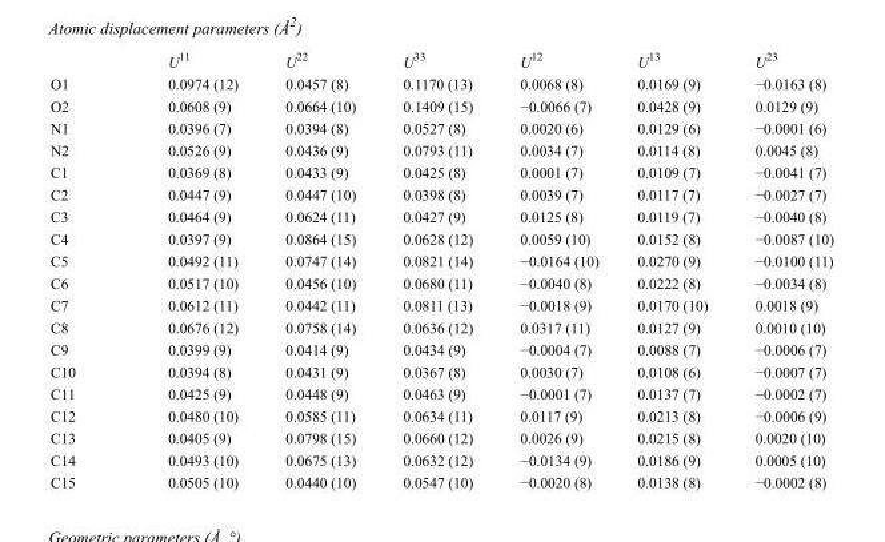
<table><thead><tr><td></td><td>U<sup>11</sup></td><td>U<sup>22</sup></td><td>U<sup>33</sup></td><td>U<sup>12</sup></td><td>U<sup>13</sup></td><td>U<sup>23</sup></td></tr></thead><tbody><tr><td>O1</td><td>0.0974 (12)</td><td>0.0457 (8)</td><td>0.1170 (13)</td><td>0.0068 (8)</td><td>0.0169 (9)</td><td>−0.0163 (8)</td></tr><tr><td>O2</td><td>0.0608 (9)</td><td>0.0664 (10)</td><td>0.1409 (15)</td><td>−0.0066 (7)</td><td>0.0428 (9)</td><td>0.0129 (9)</td></tr><tr><td>N1</td><td>0.0396 (7)</td><td>0.0394 (8)</td><td>0.0527 (8)</td><td>0.0020 (6)</td><td>0.0129 (6)</td><td>−0.0001 (6)</td></tr><tr><td>N2</td><td>0.0526 (9)</td><td>0.0436 (9)</td><td>0.0793 (11)</td><td>0.0034 (7)</td><td>0.0114 (8)</td><td>0.0045 (8)</td></tr><tr><td>C1</td><td>0.0369 (8)</td><td>0.0433 (9)</td><td>0.0425 (8)</td><td>0.0001 (7)</td><td>0.0109 (7)</td><td>−0.0041 (7)</td></tr><tr><td>C2</td><td>0.0447 (9)</td><td>0.0447 (10)</td><td>0.0398 (8)</td><td>0.0039 (7)</td><td>0.0117 (7)</td><td>−0.0027 (7)</td></tr><tr><td>C3</td><td>0.0464 (9)</td><td>0.0624 (11)</td><td>0.0427 (9)</td><td>0.0125 (8)</td><td>0.0119 (7)</td><td>−0.0040 (8)</td></tr><tr><td>C4</td><td>0.0397 (9)</td><td>0.0864 (15)</td><td>0.0628 (12)</td><td>0.0059 (10)</td><td>0.0152 (8)</td><td>−0.0087 (10)</td></tr><tr><td>C5</td><td>0.0492 (11)</td><td>0.0747 (14)</td><td>0.0821 (14)</td><td>−0.0164 (10)</td><td>0.0270 (9)</td><td>−0.0100 (11)</td></tr><tr><td>C6</td><td>0.0517 (10)</td><td>0.0456 (10)</td><td>0.0680 (11)</td><td>−0.0040 (8)</td><td>0.0222 (8)</td><td>−0.0034 (8)</td></tr><tr><td>C7</td><td>0.0612 (11)</td><td>0.0442 (11)</td><td>0.0811 (13)</td><td>−0.0018 (9)</td><td>0.0170 (10)</td><td>0.0018 (9)</td></tr><tr><td>C8</td><td>0.0676 (12)</td><td>0.0758 (14)</td><td>0.0636 (12)</td><td>0.0317 (11)</td><td>0.0127 (9)</td><td>0.0010 (10)</td></tr><tr><td>C9</td><td>0.0399 (9)</td><td>0.0414 (9)</td><td>0.0434 (9)</td><td>−0.0004 (7)</td><td>0.0088 (7)</td><td>−0.0006 (7)</td></tr><tr><td>C10</td><td>0.0394 (8)</td><td>0.0431 (9)</td><td>0.0367 (8)</td><td>0.0030 (7)</td><td>0.0108 (6)</td><td>−0.0007 (7)</td></tr><tr><td>C11</td><td>0.0425 (9)</td><td>0.0448 (9)</td><td>0.0463 (9)</td><td>−0.0001 (7)</td><td>0.0137 (7)</td><td>−0.0002 (7)</td></tr><tr><td>C12</td><td>0.0480 (10)</td><td>0.0585 (11)</td><td>0.0634 (11)</td><td>0.0117 (9)</td><td>0.0213 (8)</td><td>−0.0006 (9)</td></tr><tr><td>C13</td><td>0.0405 (9)</td><td>0.0798 (15)</td><td>0.0660 (12)</td><td>0.0026 (9)</td><td>0.0215 (8)</td><td>0.0020 (10)</td></tr><tr><td>C14</td><td>0.0493 (10)</td><td>0.0675 (13)</td><td>0.0632 (12)</td><td>−0.0134 (9)</td><td>0.0186 (9)</td><td>0.0005 (10)</td></tr><tr><td>C15</td><td>0.0505 (10)</td><td>0.0440 (10)</td><td>0.0547 (10)</td><td>−0.0020 (8)</td><td>0.0138 (8)</td><td>−0.0002 (8)</td></tr></tbody></table>